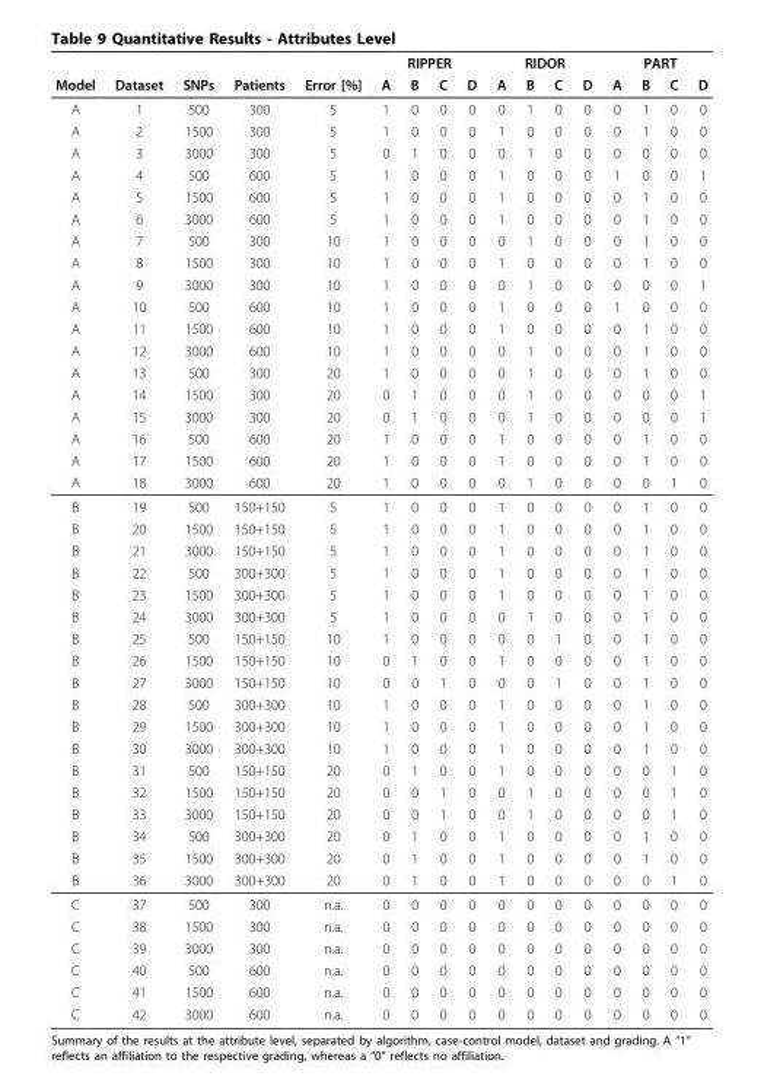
<table><thead><tr><td rowspan="2">Model</td><td rowspan="2">Dataset</td><td rowspan="2">SNPs</td><td rowspan="2">Patients</td><td rowspan="2">Error [%]</td><td colspan="4">RIPPER</td><td colspan="4">RIDOR</td><td colspan="4">PART</td></tr><tr><td>A</td><td>B</td><td>C</td><td>D</td><td>A</td><td>B</td><td>C</td><td>D</td><td>A</td><td>B</td><td>C</td><td>D</td></tr></thead><tbody><tr><td>A</td><td>1</td><td>500</td><td>300</td><td>5</td><td>1</td><td>0</td><td>0</td><td>0</td><td>0</td><td>1</td><td>0</td><td>0</td><td>0</td><td>1</td><td>0</td><td>0</td></tr><tr><td>A</td><td>2</td><td>1500</td><td>300</td><td>5</td><td>1</td><td>0</td><td>0</td><td>0</td><td>1</td><td>0</td><td>0</td><td>0</td><td>0</td><td>1</td><td>0</td><td>0</td></tr><tr><td>A</td><td>3</td><td>3000</td><td>300</td><td>5</td><td>0</td><td>1</td><td>0</td><td>0</td><td>0</td><td>1</td><td>0</td><td>0</td><td>0</td><td>0</td><td>0</td><td>0</td></tr><tr><td>A</td><td>4</td><td>500</td><td>600</td><td>5</td><td>1</td><td>0</td><td>0</td><td>0</td><td>1</td><td>0</td><td>0</td><td>0</td><td>1</td><td>0</td><td>0</td><td>1</td></tr><tr><td>A</td><td>5</td><td>1500</td><td>600</td><td>5</td><td>1</td><td>0</td><td>0</td><td>0</td><td>1</td><td>0</td><td>0</td><td>0</td><td>0</td><td>1</td><td>0</td><td>0</td></tr><tr><td>A</td><td>6</td><td>3000</td><td>600</td><td>5</td><td>1</td><td>0</td><td>0</td><td>0</td><td>1</td><td>0</td><td>0</td><td>0</td><td>0</td><td>1</td><td>0</td><td>0</td></tr><tr><td>A</td><td>7</td><td>500</td><td>300</td><td>10</td><td>1</td><td>0</td><td>0</td><td>0</td><td>0</td><td>1</td><td>0</td><td>0</td><td>0</td><td>1</td><td>0</td><td>0</td></tr><tr><td>A</td><td>8</td><td>1500</td><td>300</td><td>10</td><td>1</td><td>0</td><td>0</td><td>0</td><td>1</td><td>0</td><td>0</td><td>0</td><td>0</td><td>1</td><td>0</td><td>0</td></tr><tr><td>A</td><td>9</td><td>3000</td><td>300</td><td>10</td><td>1</td><td>0</td><td>0</td><td>0</td><td>0</td><td>1</td><td>0</td><td>0</td><td>0</td><td>0</td><td>0</td><td>1</td></tr><tr><td>A</td><td>10</td><td>500</td><td>600</td><td>10</td><td>1</td><td>0</td><td>0</td><td>0</td><td>1</td><td>0</td><td>0</td><td>0</td><td>1</td><td>0</td><td>0</td><td>0</td></tr><tr><td>A</td><td>11</td><td>1500</td><td>600</td><td>10</td><td>1</td><td>0</td><td>0</td><td>0</td><td>1</td><td>0</td><td>0</td><td>0</td><td>0</td><td>1</td><td>0</td><td>0</td></tr><tr><td>A</td><td>12</td><td>3000</td><td>600</td><td>10</td><td>1</td><td>0</td><td>0</td><td>0</td><td>0</td><td>1</td><td>0</td><td>0</td><td>0</td><td>1</td><td>0</td><td>0</td></tr><tr><td>A</td><td>13</td><td>500</td><td>300</td><td>20</td><td>1</td><td>0</td><td>0</td><td>0</td><td>0</td><td>1</td><td>0</td><td>0</td><td>0</td><td>1</td><td>0</td><td>0</td></tr><tr><td>A</td><td>14</td><td>1500</td><td>300</td><td>20</td><td>0</td><td>1</td><td>0</td><td>0</td><td>0</td><td>1</td><td>0</td><td>0</td><td>0</td><td>0</td><td>0</td><td>1</td></tr><tr><td>A</td><td>15</td><td>3000</td><td>300</td><td>20</td><td>0</td><td>1</td><td>0</td><td>0</td><td>0</td><td>1</td><td>0</td><td>0</td><td>0</td><td>0</td><td>0</td><td>1</td></tr><tr><td>A</td><td>16</td><td>500</td><td>600</td><td>20</td><td>1</td><td>0</td><td>0</td><td>0</td><td>1</td><td>0</td><td>0</td><td>0</td><td>0</td><td>1</td><td>0</td><td>0</td></tr><tr><td>A</td><td>17</td><td>1500</td><td>600</td><td>20</td><td>1</td><td>0</td><td>0</td><td>0</td><td>1</td><td>0</td><td>0</td><td>0</td><td>0</td><td>1</td><td>0</td><td>0</td></tr><tr><td>A</td><td>18</td><td>3000</td><td>600</td><td>20</td><td>1</td><td>0</td><td>0</td><td>0</td><td>0</td><td>1</td><td>0</td><td>0</td><td>0</td><td>0</td><td>1</td><td>0</td></tr><tr><td>B</td><td>19</td><td>500</td><td>150+150</td><td>5</td><td>1</td><td>0</td><td>0</td><td>0</td><td>1</td><td>0</td><td>0</td><td>0</td><td>0</td><td>1</td><td>0</td><td>0</td></tr><tr><td>B</td><td>20</td><td>1500</td><td>150+150</td><td>5</td><td>1</td><td>0</td><td>0</td><td>0</td><td>1</td><td>0</td><td>0</td><td>0</td><td>0</td><td>1</td><td>0</td><td>0</td></tr><tr><td>B</td><td>21</td><td>3000</td><td>150+150</td><td>5</td><td>1</td><td>0</td><td>0</td><td>0</td><td>1</td><td>0</td><td>0</td><td>0</td><td>0</td><td>1</td><td>0</td><td>0</td></tr><tr><td>B</td><td>22</td><td>500</td><td>300+300</td><td>5</td><td>1</td><td>0</td><td>0</td><td>0</td><td>1</td><td>0</td><td>0</td><td>0</td><td>0</td><td>1</td><td>0</td><td>0</td></tr><tr><td>B</td><td>23</td><td>1500</td><td>300+300</td><td>5</td><td>1</td><td>0</td><td>0</td><td>0</td><td>1</td><td>0</td><td>0</td><td>0</td><td>0</td><td>1</td><td>0</td><td>0</td></tr><tr><td>B</td><td>24</td><td>3000</td><td>300+300</td><td>5</td><td>1</td><td>0</td><td>0</td><td>0</td><td>0</td><td>1</td><td>0</td><td>0</td><td>0</td><td>1</td><td>0</td><td>0</td></tr><tr><td>B</td><td>25</td><td>500</td><td>150+150</td><td>10</td><td>1</td><td>0</td><td>0</td><td>0</td><td>0</td><td>0</td><td>1</td><td>0</td><td>0</td><td>1</td><td>0</td><td>0</td></tr><tr><td>B</td><td>26</td><td>1500</td><td>150+150</td><td>10</td><td>0</td><td>1</td><td>0</td><td>0</td><td>1</td><td>0</td><td>0</td><td>0</td><td>0</td><td>1</td><td>0</td><td>0</td></tr><tr><td>B</td><td>27</td><td>3000</td><td>150+150</td><td>10</td><td>0</td><td>0</td><td>1</td><td>0</td><td>0</td><td>0</td><td>1</td><td>0</td><td>0</td><td>1</td><td>0</td><td>0</td></tr><tr><td>B</td><td>28</td><td>500</td><td>300+300</td><td>10</td><td>1</td><td>0</td><td>0</td><td>0</td><td>1</td><td>0</td><td>0</td><td>0</td><td>0</td><td>1</td><td>0</td><td>0</td></tr><tr><td>B</td><td>29</td><td>1500</td><td>300+300</td><td>10</td><td>1</td><td>0</td><td>0</td><td>0</td><td>1</td><td>0</td><td>0</td><td>0</td><td>0</td><td>1</td><td>0</td><td>0</td></tr><tr><td>B</td><td>30</td><td>3000</td><td>300+300</td><td>10</td><td>1</td><td>0</td><td>0</td><td>0</td><td>1</td><td>0</td><td>0</td><td>0</td><td>0</td><td>1</td><td>0</td><td>0</td></tr><tr><td>B</td><td>31</td><td>500</td><td>150+150</td><td>20</td><td>0</td><td>1</td><td>0</td><td>0</td><td>1</td><td>0</td><td>0</td><td>0</td><td>0</td><td>0</td><td>1</td><td>0</td></tr><tr><td>B</td><td>32</td><td>1500</td><td>150+150</td><td>20</td><td>0</td><td>0</td><td>1</td><td>0</td><td>0</td><td>1</td><td>0</td><td>0</td><td>0</td><td>0</td><td>1</td><td>0</td></tr><tr><td>B</td><td>33</td><td>3000</td><td>150+150</td><td>20</td><td>0</td><td>0</td><td>1</td><td>0</td><td>0</td><td>1</td><td>0</td><td>0</td><td>0</td><td>0</td><td>1</td><td>0</td></tr><tr><td>B</td><td>34</td><td>500</td><td>300+300</td><td>20</td><td>0</td><td>1</td><td>0</td><td>0</td><td>1</td><td>0</td><td>0</td><td>0</td><td>0</td><td>1</td><td>0</td><td>0</td></tr><tr><td>B</td><td>35</td><td>1500</td><td>300+300</td><td>20</td><td>0</td><td>1</td><td>0</td><td>0</td><td>1</td><td>0</td><td>0</td><td>0</td><td>0</td><td>1</td><td>0</td><td>0</td></tr><tr><td>B</td><td>36</td><td>3000</td><td>300+300</td><td>20</td><td>0</td><td>1</td><td>0</td><td>0</td><td>1</td><td>0</td><td>0</td><td>0</td><td>0</td><td>0</td><td>1</td><td>0</td></tr><tr><td>C</td><td>37</td><td>500</td><td>300</td><td>n.a.</td><td>0</td><td>0</td><td>0</td><td>0</td><td>0</td><td>0</td><td>0</td><td>0</td><td>0</td><td>0</td><td>0</td><td>0</td></tr><tr><td>C</td><td>38</td><td>1500</td><td>300</td><td>n.a.</td><td>0</td><td>0</td><td>0</td><td>0</td><td>0</td><td>0</td><td>0</td><td>0</td><td>0</td><td>0</td><td>0</td><td>0</td></tr><tr><td>C</td><td>39</td><td>3000</td><td>300</td><td>n.a.</td><td>0</td><td>0</td><td>0</td><td>0</td><td>0</td><td>0</td><td>0</td><td>0</td><td>0</td><td>0</td><td>0</td><td>0</td></tr><tr><td>C</td><td>40</td><td>500</td><td>600</td><td>n.a.</td><td>0</td><td>0</td><td>0</td><td>0</td><td>0</td><td>0</td><td>0</td><td>0</td><td>0</td><td>0</td><td>0</td><td>0</td></tr><tr><td>C</td><td>41</td><td>1500</td><td>600</td><td>n.a.</td><td>0</td><td>0</td><td>0</td><td>0</td><td>0</td><td>0</td><td>0</td><td>0</td><td>0</td><td>0</td><td>0</td><td>0</td></tr><tr><td>C</td><td>42</td><td>3000</td><td>600</td><td>n.a.</td><td>0</td><td>0</td><td>0</td><td>0</td><td>0</td><td>0</td><td>0</td><td>0</td><td>0</td><td>0</td><td>0</td><td>0</td></tr></tbody></table>